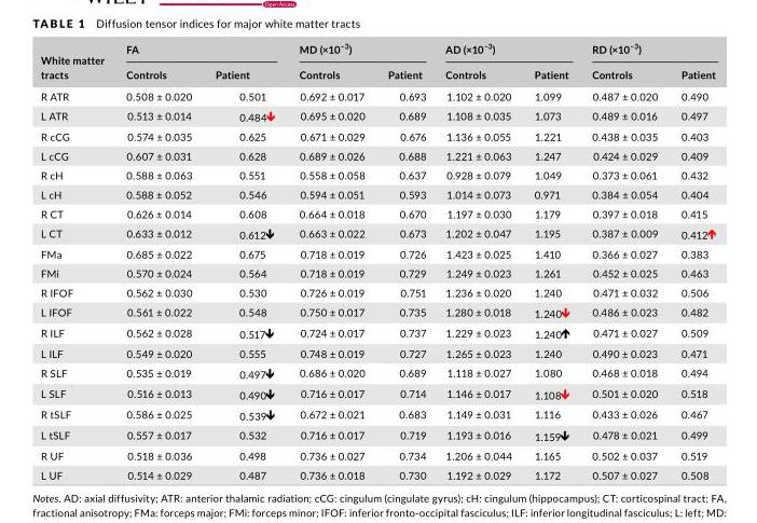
<table><thead><tr><td rowspan="2">White matter tracts</td><td colspan="2">FA</td><td colspan="2">MD (×10<sup>−3</sup>)</td><td colspan="2">AD (×10<sup>−3</sup>)</td><td colspan="2">RD (×10<sup>−3</sup>)</td></tr><tr><td>Controls</td><td>Patient</td><td>Controls</td><td>Patient</td><td>Controls</td><td>Patient</td><td>Controls</td><td>Patient</td></tr></thead><tbody><tr><td>R ATR</td><td>0.508 ± 0.020</td><td>0.501</td><td>0.692 ± 0.017</td><td>0.693</td><td>1.102 ± 0.020</td><td>1.099</td><td>0.487 ± 0.020</td><td>0.490</td></tr><tr><td>L ATR</td><td>0.513 ± 0.014</td><td>0.484</td><td>0.695 ± 0.020</td><td>0.689</td><td>1.108 ± 0.035</td><td>1.073</td><td>0.489 ± 0.016</td><td>0.497</td></tr><tr><td>R cCG</td><td>0.574 ± 0.035</td><td>0.625</td><td>0.671 ± 0.029</td><td>0.676</td><td>1.136 ± 0.055</td><td>1.221</td><td>0.438 ± 0.035</td><td>0.403</td></tr><tr><td>L cCG</td><td>0.607 ± 0.031</td><td>0.628</td><td>0.689 ± 0.026</td><td>0.688</td><td>1.221 ± 0.063</td><td>1.247</td><td>0.424 ± 0.029</td><td>0.409</td></tr><tr><td>R cH</td><td>0.588 ± 0.063</td><td>0.551</td><td>0.558 ± 0.058</td><td>0.637</td><td>0.928 ± 0.079</td><td>1.049</td><td>0.373 ± 0.061</td><td>0.432</td></tr><tr><td>L cH</td><td>0.588 ± 0.052</td><td>0.546</td><td>0.594 ± 0.051</td><td>0.593</td><td>1.014 ± 0.073</td><td>0.971</td><td>0.384 ± 0.054</td><td>0.404</td></tr><tr><td>R CT</td><td>0.626 ± 0.014</td><td>0.608</td><td>0.664 ± 0.018</td><td>0.670</td><td>1.197 ± 0.030</td><td>1.179</td><td>0.397 ± 0.018</td><td>0.415</td></tr><tr><td>L CT</td><td>0.633 ± 0.012</td><td>0.612</td><td>0.663 ± 0.022</td><td>0.673</td><td>1.202 ± 0.047</td><td>1.195</td><td>0.387 ± 0.009</td><td>0.412</td></tr><tr><td>FMa</td><td>0.685 ± 0.022</td><td>0.675</td><td>0.718 ± 0.019</td><td>0.726</td><td>1.423 ± 0.025</td><td>1.410</td><td>0.366 ± 0.027</td><td>0.383</td></tr><tr><td>FMi</td><td>0.570 ± 0.024</td><td>0.564</td><td>0.718 ± 0.019</td><td>0.729</td><td>1.249 ± 0.023</td><td>1.261</td><td>0.452 ± 0.025</td><td>0.463</td></tr><tr><td>R IFOF</td><td>0.562 ± 0.030</td><td>0.530</td><td>0.726 ± 0.019</td><td>0.751</td><td>1.236 ± 0.020</td><td>1.240</td><td>0.471 ± 0.032</td><td>0.506</td></tr><tr><td>L IFOF</td><td>0.561 ± 0.022</td><td>0.548</td><td>0.750 ± 0.017</td><td>0.735</td><td>1.280 ± 0.018</td><td>1.240</td><td>0.486 ± 0.023</td><td>0.482</td></tr><tr><td>R ILF</td><td>0.562 ± 0.028</td><td>0.517</td><td>0.724 ± 0.017</td><td>0.737</td><td>1.229 ± 0.023</td><td>1.240</td><td>0.471 ± 0.027</td><td>0.509</td></tr><tr><td>L ILF</td><td>0.549 ± 0.020</td><td>0.555</td><td>0.748 ± 0.019</td><td>0.727</td><td>1.265 ± 0.023</td><td>1.240</td><td>0.490 ± 0.023</td><td>0.471</td></tr><tr><td>R SLF</td><td>0.535 ± 0.019</td><td>0.497</td><td>0.686 ± 0.020</td><td>0.689</td><td>1.118 ± 0.027</td><td>1.080</td><td>0.468 ± 0.018</td><td>0.494</td></tr><tr><td>L SLF</td><td>0.516 ± 0.013</td><td>0.490</td><td>0.716 ± 0.017</td><td>0.714</td><td>1.146 ± 0.017</td><td>1.108</td><td>0.501 ± 0.020</td><td>0.518</td></tr><tr><td>R tSLF</td><td>0.586 ± 0.025</td><td>0.539</td><td>0.672 ± 0.021</td><td>0.683</td><td>1.149 ± 0.031</td><td>1.116</td><td>0.433 ± 0.026</td><td>0.467</td></tr><tr><td>L tSLF</td><td>0.557 ± 0.017</td><td>0.532</td><td>0.716 ± 0.017</td><td>0.719</td><td>1.193 ± 0.016</td><td>1.159</td><td>0.478 ± 0.021</td><td>0.499</td></tr><tr><td>R UF</td><td>0.518 ± 0.036</td><td>0.498</td><td>0.736 ± 0.027</td><td>0.734</td><td>1.206 ± 0.044</td><td>1.165</td><td>0.502 ± 0.037</td><td>0.519</td></tr><tr><td>L UF</td><td>0.514 ± 0.029</td><td>0.487</td><td>0.736 ± 0.018</td><td>0.730</td><td>1.192 ± 0.029</td><td>1.172</td><td>0.507 ± 0.027</td><td>0.508</td></tr></tbody></table>